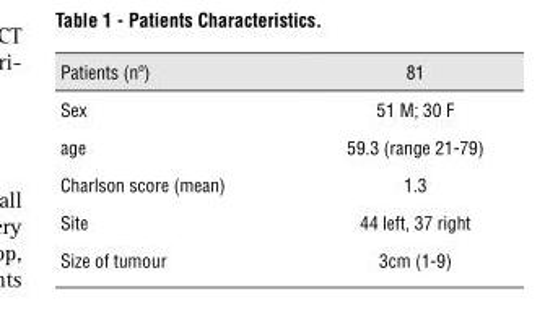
<table><thead><tr><td>Patients (nº)</td><td>81</td></tr></thead><tbody><tr><td>Sex</td><td>51 M; 30 F</td></tr><tr><td>age</td><td>59.3 (range 21-79)</td></tr><tr><td>Charlson score (mean)</td><td>1.3</td></tr><tr><td>Site</td><td>44 left, 37 right</td></tr><tr><td>Size of tumour</td><td>3cm (1-9)</td></tr></tbody></table>